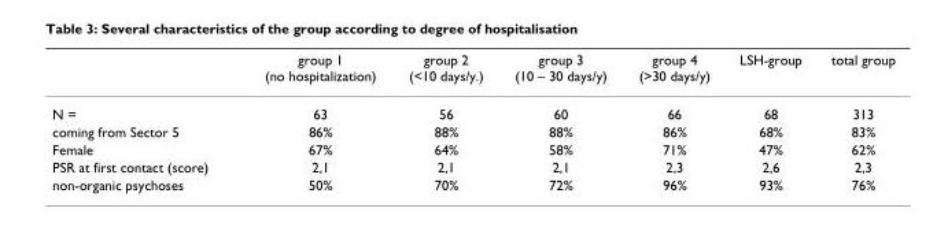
<table><thead><tr><td></td><td>group 1 (no hospitalization)</td><td>group 2 (&lt;10 days/y.)</td><td>group 3 (10 – 30 days/y)</td><td>group 4 (&gt;30 days/y)</td><td>LSH-group</td><td>total group</td></tr></thead><tbody><tr><td>N =</td><td>63</td><td>56</td><td>60</td><td>66</td><td>68</td><td>313</td></tr><tr><td>coming from Sector 5</td><td>86%</td><td>88%</td><td>88%</td><td>86%</td><td>68%</td><td>83%</td></tr><tr><td>Female</td><td>67%</td><td>64%</td><td>58%</td><td>71%</td><td>47%</td><td>62%</td></tr><tr><td>PSR at first contact (score)</td><td>2,1</td><td>2,1</td><td>2,1</td><td>2,3</td><td>2,6</td><td>2,3</td></tr><tr><td>non-organic psychoses</td><td>50%</td><td>70%</td><td>72%</td><td>96%</td><td>93%</td><td>76%</td></tr></tbody></table>